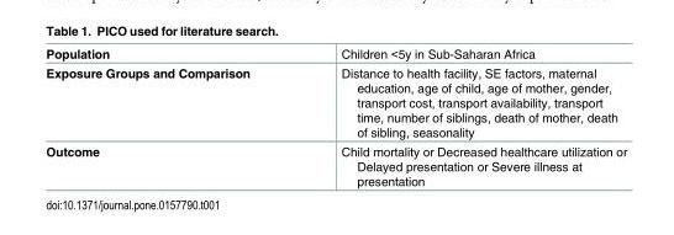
<table><tbody><tr><td>Population</td><td>Children &lt;5y in Sub-Saharan Africa</td></tr><tr><td>Exposure Groups and Comparison</td><td>Distance to health facility, SE factors, maternal education, age of child, age of mother, gender, transport cost, transport availability, transport time, number of siblings, death of mother, death of sibling, seasonality</td></tr><tr><td>Outcome</td><td>Child mortality or Decreased healthcare utilization or Delayed presentation or Severe illness at presentation</td></tr></tbody></table>